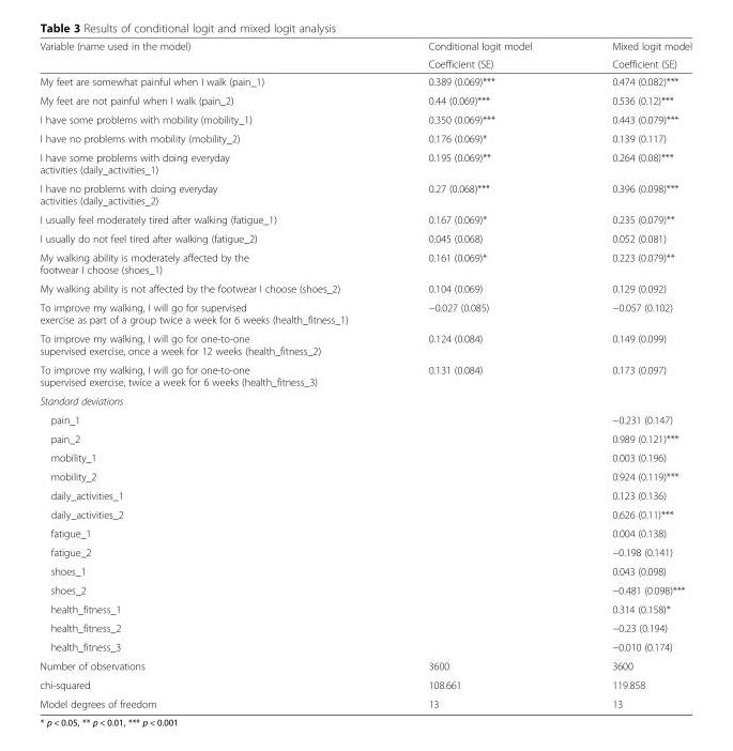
<table><thead><tr><td rowspan="2">Variable (name used in the model)</td><td rowspan="2">Conditional logit model Coefficient (SE)</td><td rowspan="2">Mixed logit model Coefficient (SE)</td></tr><tr></tr></thead><tbody><tr><td>My feet are somewhat painful when I walk (pain_1)</td><td>0.389 (0.069)***</td><td>0.474 (0.082)***</td></tr><tr><td>My feet are not painful when I walk (pain_2)</td><td>0.44 (0.069)***</td><td>0.536 (0.12)***</td></tr><tr><td>I have some problems with mobility (mobility_1)</td><td>0.350 (0.069)***</td><td>0.443 (0.079)***</td></tr><tr><td>I have no problems with mobility (mobility_2)</td><td>0.176 (0.069)*</td><td>0.139 (0.117)</td></tr><tr><td>I have some problems with doing everyday activities (daily_activities_1)</td><td>0.195 (0.069)**</td><td>0.264 (0.08)***</td></tr><tr><td>I have no problems with doing everyday activities (daily_activities_2)</td><td>0.27 (0.068)***</td><td>0.396 (0.098)***</td></tr><tr><td>I usually feel moderately tired after walking (fatigue_1)</td><td>0.167 (0.069)*</td><td>0.235 (0.079)**</td></tr><tr><td>I usually do not feel tired after walking (fatigue_2)</td><td>0.045 (0.068)</td><td>0.052 (0.081)</td></tr><tr><td>My walking ability is moderately affected by the footwear I choose (shoes_1)</td><td>0.161 (0.069)*</td><td>0.223 (0.079)**</td></tr><tr><td>My walking ability is not affected by the footwear I choose (shoes_2)</td><td>0.104 (0.069)</td><td>0.129 (0.092)</td></tr><tr><td>To improve my walking, I will go for supervised exercise as part of a group twice a week for 6 weeks (health_fitness_1)</td><td>−0.027 (0.085)</td><td>−0.057 (0.102)</td></tr><tr><td>To improve my walking, I will go for one-to-one supervised exercise, once a week for 12 weeks (health_fitness_2)</td><td>0.124 (0.084)</td><td>0.149 (0.099)</td></tr><tr><td>To improve my walking, I will go for one-to-one supervised exercise, twice a week for 6 weeks (health_fitness_3)</td><td>0.131 (0.084)</td><td>0.173 (0.097)</td></tr><tr><td colspan="3">Standard deviations</td></tr><tr><td>pain_1</td><td></td><td>−0.231 (0.147)</td></tr><tr><td>pain_2</td><td></td><td>0.989 (0.121)***</td></tr><tr><td>mobility_1</td><td></td><td>0.003 (0.196)</td></tr><tr><td>mobility_2</td><td></td><td>0.924 (0.119)***</td></tr><tr><td>daily_activities_1</td><td></td><td>0.123 (0.136)</td></tr><tr><td>daily_activities_2</td><td></td><td>0.626 (0.11)***</td></tr><tr><td>fatigue_1</td><td></td><td>0.004 (0.138)</td></tr><tr><td>fatigue_2</td><td></td><td>−0.198 (0.141)</td></tr><tr><td>shoes_1</td><td></td><td>0.043 (0.098)</td></tr><tr><td>shoes_2</td><td></td><td>−0.481 (0.098)***</td></tr><tr><td>health_fitness_1</td><td></td><td>0.314 (0.158)*</td></tr><tr><td>health_fitness_2</td><td></td><td>−0.23 (0.194)</td></tr><tr><td>health_fitness_3</td><td></td><td>−0.010 (0.174)</td></tr><tr><td>Number of observations</td><td>3600</td><td>3600</td></tr><tr><td>chi-squared</td><td>108.661</td><td>119.858</td></tr><tr><td>Model degrees of freedom</td><td>13</td><td>13</td></tr></tbody></table>